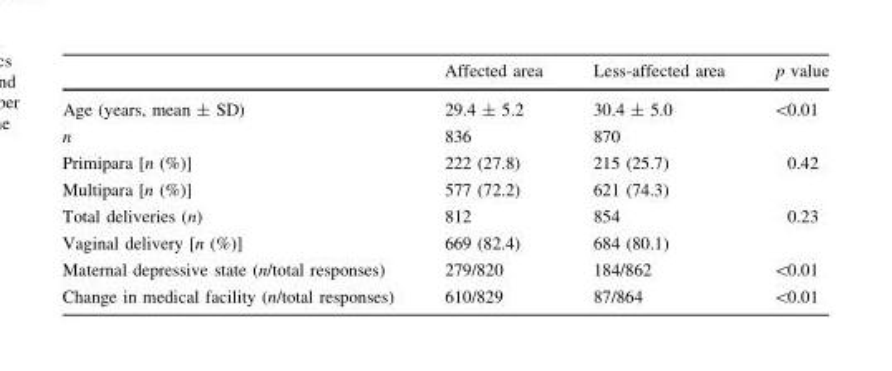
<table><thead><tr><td></td><td>Affected area</td><td>Less-affected area</td><td>p value</td></tr></thead><tbody><tr><td>Age (years, mean ± SD)</td><td>29.4 ± 5.2</td><td>30.4 ± 5.0</td><td>&lt;0.01</td></tr><tr><td>n</td><td>836</td><td>870</td><td></td></tr><tr><td>Primipara [n (%)]</td><td>222 (27.8)</td><td>215 (25.7)</td><td>0.42</td></tr><tr><td>Multipara [n (%)]</td><td>577 (72.2)</td><td>621 (74.3)</td><td></td></tr><tr><td>Total deliveries (n)</td><td>812</td><td>854</td><td>0.23</td></tr><tr><td>Vaginal delivery [n (%)]</td><td>669 (82.4)</td><td>684 (80.1)</td><td></td></tr><tr><td>Maternal depressive state (n/total responses)</td><td>279/820</td><td>184/862</td><td>&lt;0.01</td></tr><tr><td>Change in medical facility (n/total responses)</td><td>610/829</td><td>87/864</td><td>&lt;0.01</td></tr></tbody></table>